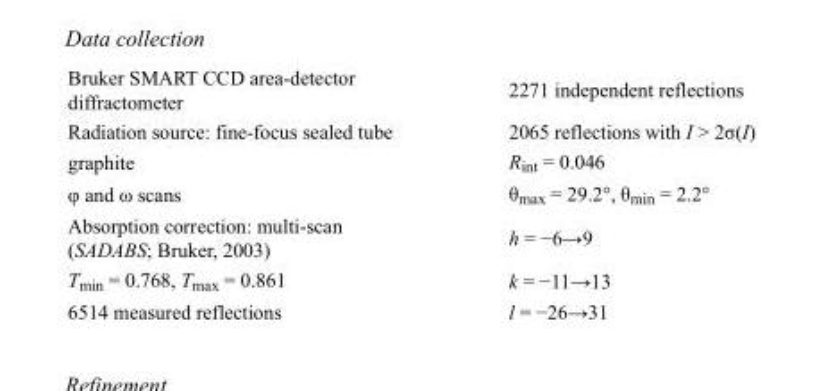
<table><tbody><tr><td>Bruker SMART CCD area-detector diffractometer</td><td>2271 independent reflections</td></tr><tr><td>Radiation source: fine-focus sealed tube</td><td>2065 reflections with I &gt; 2σ(I)</td></tr><tr><td>graphite</td><td>R<sub>int</sub> = 0.046</td></tr><tr><td>φ and ω scans</td><td>θ<sub>max</sub> = 29.2°, θ<sub>min</sub> = 2.2°</td></tr><tr><td>Absorption correction: multi-scan (SADABS; Bruker, 2003)</td><td>h = −6→9</td></tr><tr><td>T<sub>min</sub> = 0.768, T<sub>max</sub> = 0.861</td><td>k = −11→13</td></tr><tr><td>6514 measured reflections</td><td>l = −26→31</td></tr></tbody></table>